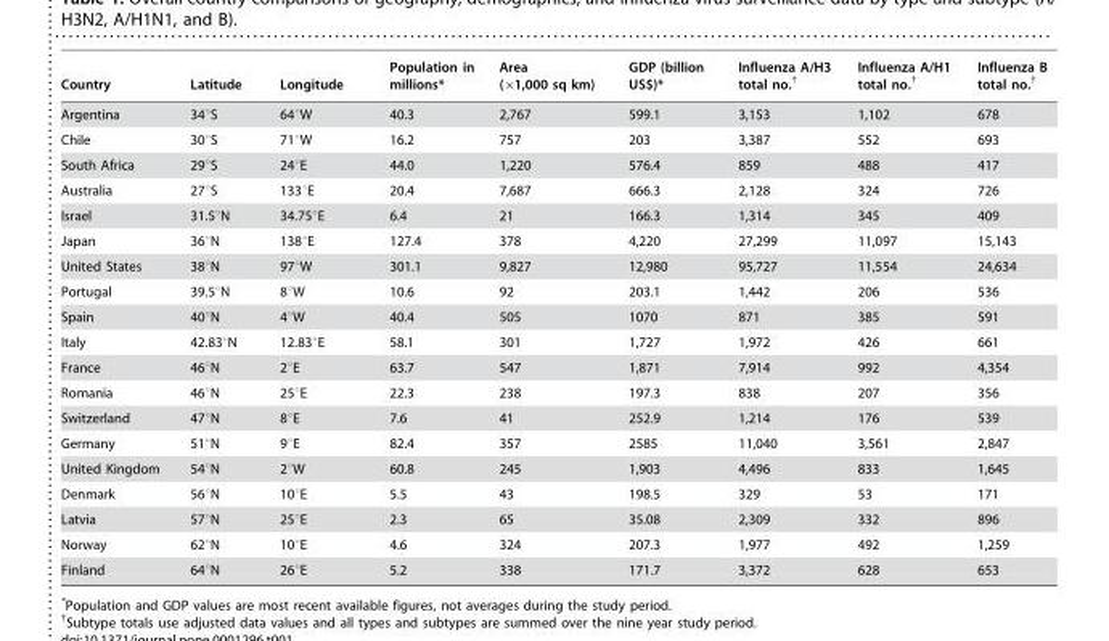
<table><thead><tr><td>Country</td><td>Latitude</td><td>Longitude</td><td>Population in millions*</td><td>Area (×1,000 sq km)</td><td>GDP (billion US$)*</td><td>Influenza A/H3 total no.†</td><td>Influenza A/H1 total no.†</td><td>Influenza B total no.†</td></tr></thead><tbody><tr><td>Argentina</td><td>34°S</td><td>64°W</td><td>40.3</td><td>2,767</td><td>599.1</td><td>3,153</td><td>1,102</td><td>678</td></tr><tr><td>Chile</td><td>30°S</td><td>71°W</td><td>16.2</td><td>757</td><td>203</td><td>3,387</td><td>552</td><td>693</td></tr><tr><td>South Africa</td><td>29°S</td><td>24°E</td><td>44.0</td><td>1,220</td><td>576.4</td><td>859</td><td>488</td><td>417</td></tr><tr><td>Australia</td><td>27°S</td><td>133°E</td><td>20.4</td><td>7,687</td><td>666.3</td><td>2,128</td><td>324</td><td>726</td></tr><tr><td>Israel</td><td>31.5°N</td><td>34.75°E</td><td>6.4</td><td>21</td><td>166.3</td><td>1,314</td><td>345</td><td>409</td></tr><tr><td>Japan</td><td>36°N</td><td>138°E</td><td>127.4</td><td>378</td><td>4,220</td><td>27,299</td><td>11,097</td><td>15,143</td></tr><tr><td>United States</td><td>38°N</td><td>97°W</td><td>301.1</td><td>9,827</td><td>12,980</td><td>95,727</td><td>11,554</td><td>24,634</td></tr><tr><td>Portugal</td><td>39.5°N</td><td>8°W</td><td>10.6</td><td>92</td><td>203.1</td><td>1,442</td><td>206</td><td>536</td></tr><tr><td>Spain</td><td>40°N</td><td>4°W</td><td>40.4</td><td>505</td><td>1070</td><td>871</td><td>385</td><td>591</td></tr><tr><td>Italy</td><td>42.83°N</td><td>12.83°E</td><td>58.1</td><td>301</td><td>1,727</td><td>1,972</td><td>426</td><td>661</td></tr><tr><td>France</td><td>46°N</td><td>2°E</td><td>63.7</td><td>547</td><td>1,871</td><td>7,914</td><td>992</td><td>4,354</td></tr><tr><td>Romania</td><td>46°N</td><td>25°E</td><td>22.3</td><td>238</td><td>197.3</td><td>838</td><td>207</td><td>356</td></tr><tr><td>Switzerland</td><td>47°N</td><td>8°E</td><td>7.6</td><td>41</td><td>252.9</td><td>1,214</td><td>176</td><td>539</td></tr><tr><td>Germany</td><td>51°N</td><td>9°E</td><td>82.4</td><td>357</td><td>2585</td><td>11,040</td><td>3,561</td><td>2,847</td></tr><tr><td>United Kingdom</td><td>54°N</td><td>2°W</td><td>60.8</td><td>245</td><td>1,903</td><td>4,496</td><td>833</td><td>1,645</td></tr><tr><td>Denmark</td><td>56°N</td><td>10°E</td><td>5.5</td><td>43</td><td>198.5</td><td>329</td><td>53</td><td>171</td></tr><tr><td>Latvia</td><td>57°N</td><td>25°E</td><td>2.3</td><td>65</td><td>35.08</td><td>2,309</td><td>332</td><td>896</td></tr><tr><td>Norway</td><td>62°N</td><td>10°E</td><td>4.6</td><td>324</td><td>207.3</td><td>1,977</td><td>492</td><td>1,259</td></tr><tr><td>Finland</td><td>64°N</td><td>26°E</td><td>5.2</td><td>338</td><td>171.7</td><td>3,372</td><td>628</td><td>653</td></tr></tbody></table>